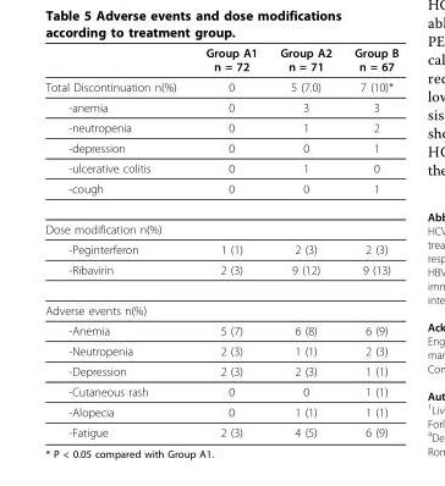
<table><thead><tr><td></td><td>Group A1 n = 72</td><td>Group A2 n = 71</td><td>Group B n = 67</td></tr></thead><tbody><tr><td>Total Discontinuation n(%)</td><td>0</td><td>5 (7.0)</td><td>7 (10)*</td></tr><tr><td>-anemia</td><td>0</td><td>3</td><td>3</td></tr><tr><td>-neutropenia</td><td>0</td><td>1</td><td>2</td></tr><tr><td>-depression</td><td>0</td><td>0</td><td>1</td></tr><tr><td>-ulcerative colitis</td><td>0</td><td>1</td><td>0</td></tr><tr><td>-cough</td><td>0</td><td>0</td><td>1</td></tr><tr><td colspan="4">Dose modification n(%)</td></tr><tr><td>-Peginterferon</td><td>1 (1)</td><td>2 (3)</td><td>2 (3)</td></tr><tr><td>-Ribavirin</td><td>2 (3)</td><td>9 (12)</td><td>9 (13)</td></tr><tr><td colspan="4">Adverse events n(%)</td></tr><tr><td>-Anemia</td><td>5 (7)</td><td>6 (8)</td><td>6 (9)</td></tr><tr><td>-Neutropenia</td><td>2 (3)</td><td>1 (1)</td><td>2 (3)</td></tr><tr><td>-Depression</td><td>2 (3)</td><td>2 (3)</td><td>1 (1)</td></tr><tr><td>-Cutaneous rash</td><td>0</td><td>0</td><td>1 (1)</td></tr><tr><td>-Alopecia</td><td>0</td><td>1 (1)</td><td>1 (1)</td></tr><tr><td>-Fatigue</td><td>2 (3)</td><td>4 (5)</td><td>6 (9)</td></tr></tbody></table>